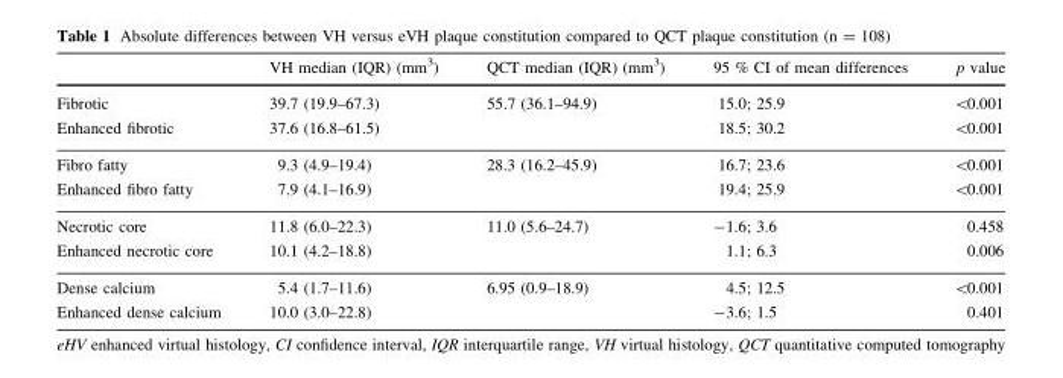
<table><thead><tr><td></td><td>VH median (IQR) (mm<sup>3</sup>)</td><td>QCT median (IQR) (mm<sup>3</sup>)</td><td>95 % CI of mean differences</td><td>p value</td></tr></thead><tbody><tr><td>Fibrotic</td><td>39.7 (19.9–67.3)</td><td rowspan="2">55.7 (36.1–94.9)</td><td>15.0; 25.9</td><td>&lt;0.001</td></tr><tr><td>Enhanced fibrotic</td><td>37.6 (16.8–61.5)</td><td>18.5; 30.2</td><td>&lt;0.001</td></tr><tr><td>Fibro fatty</td><td>9.3 (4.9–19.4)</td><td rowspan="2">28.3 (16.2–45.9)</td><td>16.7; 23.6</td><td>&lt;0.001</td></tr><tr><td>Enhanced fibro fatty</td><td>7.9 (4.1–16.9)</td><td>19.4; 25.9</td><td>&lt;0.001</td></tr><tr><td>Necrotic core</td><td>11.8 (6.0–22.3)</td><td rowspan="2">11.0 (5.6–24.7)</td><td>-1.6; 3.6</td><td>0.458</td></tr><tr><td>Enhanced necrotic core</td><td>10.1 (4.2–18.8)</td><td>1.1; 6.3</td><td>0.006</td></tr><tr><td>Dense calcium</td><td>5.4 (1.7–11.6)</td><td rowspan="2">6.95 (0.9–18.9)</td><td>4.5; 12.5</td><td>&lt;0.001</td></tr><tr><td>Enhanced dense calcium</td><td>10.0 (3.0–22.8)</td><td>-3.6; 1.5</td><td>0.401</td></tr></tbody></table>